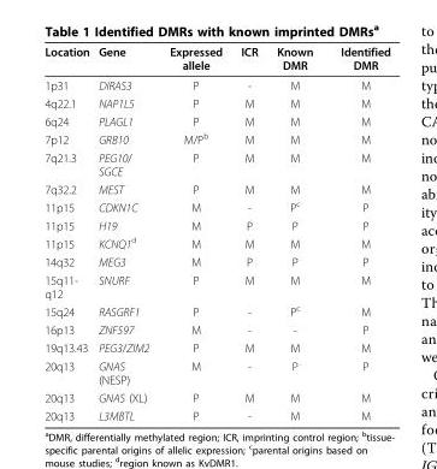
<table><thead><tr><td>Location</td><td>Gene</td><td>Expressed allele</td><td>ICR</td><td>Known DMR</td><td>Identified DMR</td></tr></thead><tbody><tr><td>1p31</td><td>DIRAS3</td><td>P</td><td>-</td><td>M</td><td>M</td></tr><tr><td>4q22.1</td><td>NAP1L5</td><td>P</td><td>M</td><td>M</td><td>M</td></tr><tr><td>6q24</td><td>PLAGL1</td><td>P</td><td>M</td><td>M</td><td>M</td></tr><tr><td>7p12</td><td>GRB10</td><td>M/P<sup>b</sup></td><td>M</td><td>M</td><td>M</td></tr><tr><td>7q21.3</td><td>PEG10/ SGCE</td><td>P</td><td>M</td><td>M</td><td>M</td></tr><tr><td>7q32.2</td><td>MEST</td><td>P</td><td>M</td><td>M</td><td>M</td></tr><tr><td>11p15</td><td>CDKN1C</td><td>M</td><td>-</td><td>P<sup>c</sup></td><td>P</td></tr><tr><td>11p15</td><td>H19</td><td>M</td><td>P</td><td>P</td><td>P</td></tr><tr><td>11p15</td><td>KCNQ1<sup>d</sup></td><td>M</td><td>M</td><td>M</td><td>M</td></tr><tr><td>14q32</td><td>MEG3</td><td>M</td><td>P</td><td>P</td><td>P</td></tr><tr><td>15q11- q12</td><td>SNURF</td><td>P</td><td>M</td><td>M</td><td>M</td></tr><tr><td>15q24</td><td>RASGRF1</td><td>P</td><td>-</td><td>P<sup>c</sup></td><td>M</td></tr><tr><td>16p13</td><td>ZNF597</td><td>M</td><td>-</td><td>-</td><td>P</td></tr><tr><td>19q13.43</td><td>PEG3/ZIM2</td><td>P</td><td>M</td><td>M</td><td>M</td></tr><tr><td>20q13</td><td>GNAS (NESP)</td><td>M</td><td>-</td><td>P</td><td>P</td></tr><tr><td>20q13</td><td>GNAS (XL)</td><td>P</td><td>M</td><td>M</td><td>M</td></tr><tr><td>20q13</td><td>L3MBTL</td><td>P</td><td>-</td><td>M</td><td>M</td></tr></tbody></table>